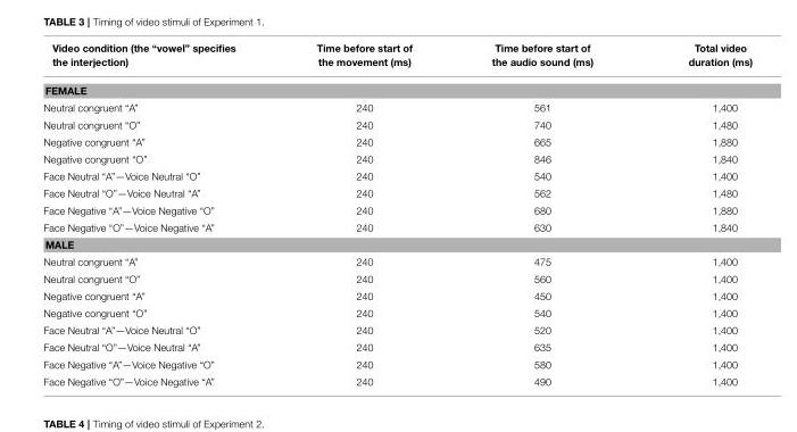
<table><thead><tr><td>Video condition (the “vowel” specifies the interjection)</td><td>Time before start of the movement (ms)</td><td>Time before start of the audio sound (ms)</td><td>Total video duration (ms)</td></tr></thead><tbody><tr><td colspan="4">FEMALE</td></tr><tr><td>Neutral congruent “A”</td><td>240</td><td>561</td><td>1,400</td></tr><tr><td>Neutral congruent “O”</td><td>240</td><td>740</td><td>1,480</td></tr><tr><td>Negative congruent “A”</td><td>240</td><td>665</td><td>1,880</td></tr><tr><td>Negative congruent “O”</td><td>240</td><td>846</td><td>1,840</td></tr><tr><td>Face Neutral “A”—Voice Neutral “O”</td><td>240</td><td>540</td><td>1,400</td></tr><tr><td>Face Neutral “O”—Voice Neutral “A”</td><td>240</td><td>562</td><td>1,480</td></tr><tr><td>Face Negative “A”—Voice Negative “O”</td><td>240</td><td>680</td><td>1,880</td></tr><tr><td>Face Negative “O”—Voice Negative “A”</td><td>240</td><td>630</td><td>1,840</td></tr><tr><td colspan="4">MALE</td></tr><tr><td>Neutral congruent “A”</td><td>240</td><td>475</td><td>1,400</td></tr><tr><td>Neutral congruent “O”</td><td>240</td><td>560</td><td>1,400</td></tr><tr><td>Negative congruent “A”</td><td>240</td><td>450</td><td>1,400</td></tr><tr><td>Negative congruent “O”</td><td>240</td><td>540</td><td>1,400</td></tr><tr><td>Face Neutral “A”—Voice Neutral “O”</td><td>240</td><td>520</td><td>1,400</td></tr><tr><td>Face Neutral “O”—Voice Neutral “A”</td><td>240</td><td>635</td><td>1,400</td></tr><tr><td>Face Negative “A”—Voice Negative “O”</td><td>240</td><td>580</td><td>1,400</td></tr><tr><td>Face Negative “O”—Voice Negative “A”</td><td>240</td><td>490</td><td>1,400</td></tr></tbody></table>